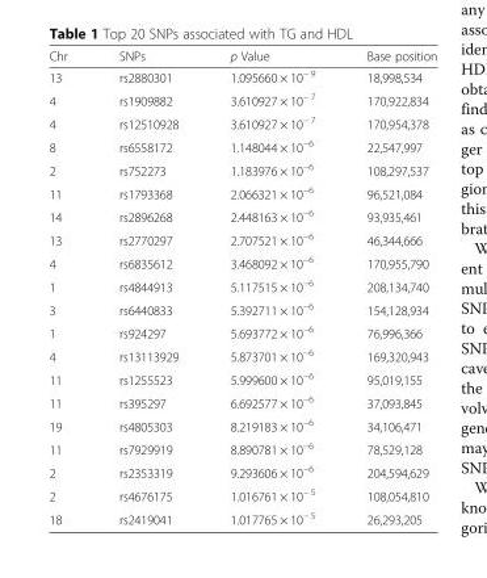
<table><thead><tr><td>Chr</td><td>SNPs</td><td>p Value</td><td>Base position</td></tr></thead><tbody><tr><td>13</td><td>rs2880301</td><td>1.095660 × 10<sup>− 9</sup></td><td>18,998,534</td></tr><tr><td>4</td><td>rs1909882</td><td>3.610927 × 10<sup>− 7</sup></td><td>170,922,834</td></tr><tr><td>4</td><td>rs12510928</td><td>3.610927 × 10<sup>− 7</sup></td><td>170,954,378</td></tr><tr><td>8</td><td>rs6558172</td><td>1.148044 × 10<sup>−6</sup></td><td>22,547,997</td></tr><tr><td>2</td><td>rs752273</td><td>1.183976 × 10<sup>−6</sup></td><td>108,297,537</td></tr><tr><td>11</td><td>rs1793368</td><td>2.066321 × 10<sup>−6</sup></td><td>96,521,084</td></tr><tr><td>14</td><td>rs2896268</td><td>2.448163 × 10<sup>−6</sup></td><td>93,935,461</td></tr><tr><td>13</td><td>rs2770297</td><td>2.707521 × 10<sup>−6</sup></td><td>46,344,666</td></tr><tr><td>4</td><td>rs6835612</td><td>3.468092 × 10<sup>−6</sup></td><td>170,955,790</td></tr><tr><td>1</td><td>rs4844913</td><td>5.117515 × 10<sup>−6</sup></td><td>208,134,740</td></tr><tr><td>3</td><td>rs6440833</td><td>5.392711 × 10<sup>−6</sup></td><td>154,128,934</td></tr><tr><td>1</td><td>rs924297</td><td>5.693772 × 10<sup>−6</sup></td><td>76,996,366</td></tr><tr><td>4</td><td>rs13113929</td><td>5.873701 × 10<sup>−6</sup></td><td>169,320,943</td></tr><tr><td>11</td><td>rs1255523</td><td>5.999600 × 10<sup>−6</sup></td><td>95,019,155</td></tr><tr><td>11</td><td>rs395297</td><td>6.692577 × 10<sup>−6</sup></td><td>37,093,845</td></tr><tr><td>19</td><td>rs4805303</td><td>8.219183 × 10<sup>−6</sup></td><td>34,106,471</td></tr><tr><td>11</td><td>rs7929919</td><td>8.890781 × 10<sup>−6</sup></td><td>78,529,128</td></tr><tr><td>2</td><td>rs2353319</td><td>9.293606 × 10<sup>−6</sup></td><td>204,594,629</td></tr><tr><td>2</td><td>rs4676175</td><td>1.016761 × 10<sup>− 5</sup></td><td>108,054,810</td></tr><tr><td>18</td><td>rs2419041</td><td>1.017765 × 10<sup>− 5</sup></td><td>26,293,205</td></tr></tbody></table>